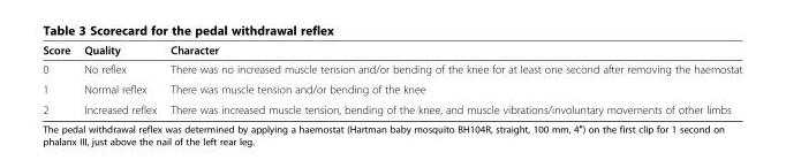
<table><thead><tr><td>Score</td><td>Quality</td><td>Character</td></tr></thead><tbody><tr><td>0</td><td>No reflex</td><td>There was no increased muscle tension and/or bending of the knee for at least one second after removing the haemostat</td></tr><tr><td>1</td><td>Normal reflex</td><td>There was muscle tension and/or bending of the knee</td></tr><tr><td>2</td><td>Increased reflex</td><td>There was increased muscle tension, bending of the knee, and muscle vibrations/involuntary movements of other limbs</td></tr></tbody></table>